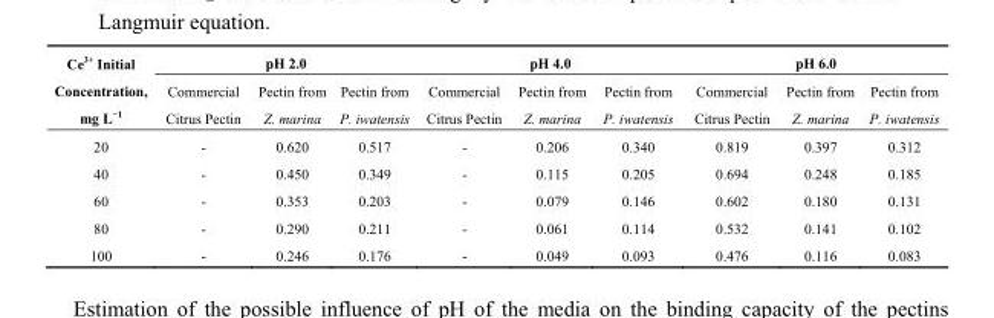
<table><tbody><tr><td rowspan="2">Ce<sup>3+</sup> Initial Concentration, mg L<sup>−1</sup></td><td colspan="3">pH 2.0</td><td colspan="3">pH 4.0</td><td colspan="3">pH 6.0</td></tr><tr><td>Commercial Citrus Pectin</td><td>Pectin from Z. marina</td><td>Pectin from P. iwatensis</td><td>Commercial Citrus Pectin</td><td>Pectin from Z. marina</td><td>Pectin from P. iwatensis</td><td>Commercial Citrus Pectin</td><td>Pectin from Z. marina</td><td>Pectin from P. iwatensis</td></tr><tr><td>20</td><td>-</td><td>0.620</td><td>0.517</td><td>-</td><td>0.206</td><td>0.340</td><td>0.819</td><td>0.397</td><td>0.312</td></tr><tr><td>40</td><td>-</td><td>0.450</td><td>0.349</td><td>-</td><td>0.115</td><td>0.205</td><td>0.694</td><td>0.248</td><td>0.185</td></tr><tr><td>60</td><td>-</td><td>0.353</td><td>0.203</td><td>-</td><td>0.079</td><td>0.146</td><td>0.602</td><td>0.180</td><td>0.131</td></tr><tr><td>80</td><td>-</td><td>0.290</td><td>0.211</td><td>-</td><td>0.061</td><td>0.114</td><td>0.532</td><td>0.141</td><td>0.102</td></tr><tr><td>100</td><td>-</td><td>0.246</td><td>0.176</td><td>-</td><td>0.049</td><td>0.093</td><td>0.476</td><td>0.116</td><td>0.083</td></tr></tbody></table>